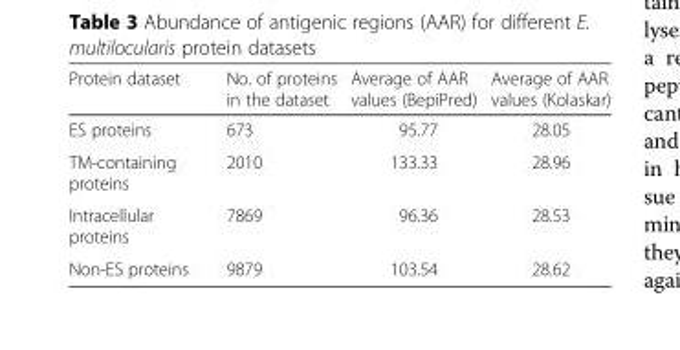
<table><thead><tr><td>Protein dataset</td><td>No. of proteins in the dataset</td><td>Average of AAR values (BepiPred)</td><td>Average of AAR values (Kolaskar)</td></tr></thead><tbody><tr><td>ES proteins</td><td>673</td><td>95.77</td><td>28.05</td></tr><tr><td>TM-containing proteins</td><td>2010</td><td>133.33</td><td>28.96</td></tr><tr><td>Intracellular proteins</td><td>7869</td><td>96.36</td><td>28.53</td></tr><tr><td>Non-ES proteins</td><td>9879</td><td>103.54</td><td>28.62</td></tr></tbody></table>